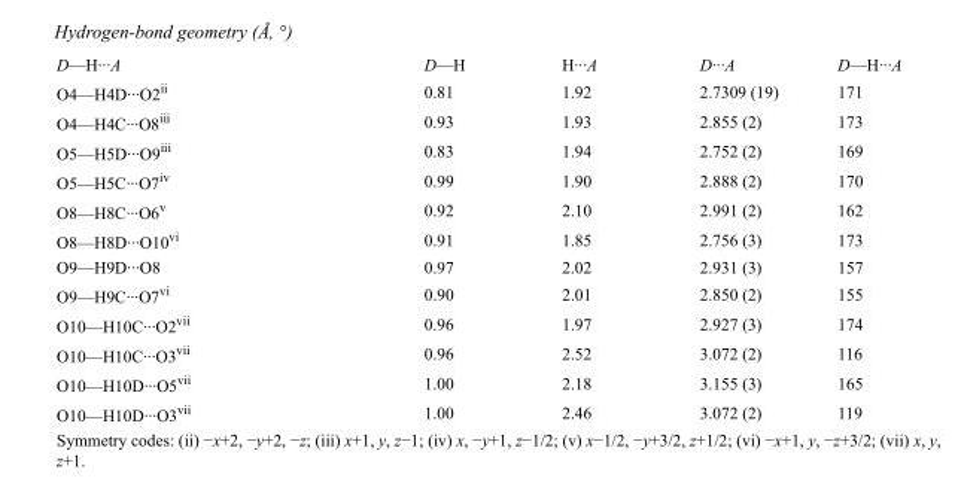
<table><tbody><tr><td>D—H···A</td><td>D—H</td><td>H···A</td><td>D···A</td><td>D—H···A</td></tr><tr><td>O4—H4D···O2<sup>ii</sup></td><td>0.81</td><td>1.92</td><td>2.7309 (19)</td><td>171</td></tr><tr><td>O4—H4C···O8<sup>iii</sup></td><td>0.93</td><td>1.93</td><td>2.855 (2)</td><td>173</td></tr><tr><td>O5—H5D···O9<sup>iii</sup></td><td>0.83</td><td>1.94</td><td>2.752 (2)</td><td>169</td></tr><tr><td>O5—H5C···O7<sup>iv</sup></td><td>0.99</td><td>1.90</td><td>2.888 (2)</td><td>170</td></tr><tr><td>O8—H8C···O6<sup>v</sup></td><td>0.92</td><td>2.10</td><td>2.991 (2)</td><td>162</td></tr><tr><td>O8—H8D···O10<sup>vi</sup></td><td>0.91</td><td>1.85</td><td>2.756 (3)</td><td>173</td></tr><tr><td>O9—H9D···O8</td><td>0.97</td><td>2.02</td><td>2.931 (3)</td><td>157</td></tr><tr><td>O9—H9C···O7<sup>vi</sup></td><td>0.90</td><td>2.01</td><td>2.850 (2)</td><td>155</td></tr><tr><td>O10—H10C···O2<sup>vii</sup></td><td>0.96</td><td>1.97</td><td>2.927 (3)</td><td>174</td></tr><tr><td>O10—H10C···O3<sup>vii</sup></td><td>0.96</td><td>2.52</td><td>3.072 (2)</td><td>116</td></tr><tr><td>O10—H10D···O5<sup>vii</sup></td><td>1.00</td><td>2.18</td><td>3.155 (3)</td><td>165</td></tr><tr><td>O10—H10D···O3<sup>vii</sup></td><td>1.00</td><td>2.46</td><td>3.072 (2)</td><td>119</td></tr></tbody></table>